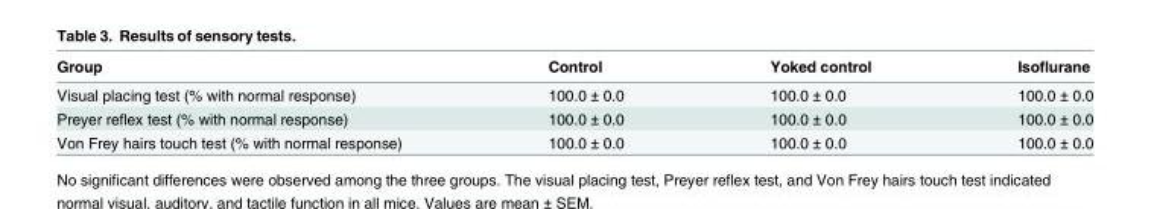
<table><thead><tr><td>Group</td><td>Control</td><td>Yoked control</td><td>Isoflurane</td></tr></thead><tbody><tr><td>Visual placing test (% with normal response)</td><td>100.0 ± 0.0</td><td>100.0 ± 0.0</td><td>100.0 ± 0.0</td></tr><tr><td>Preyer reflex test (% with normal response)</td><td>100.0 ± 0.0</td><td>100.0 ± 0.0</td><td>100.0 ± 0.0</td></tr><tr><td>Von Frey hairs touch test (% with normal response)</td><td>100.0 ± 0.0</td><td>100.0 ± 0.0</td><td>100.0 ± 0.0</td></tr></tbody></table>